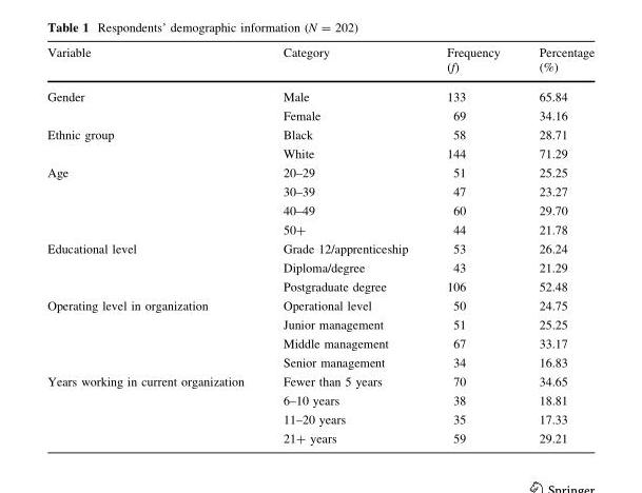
<table><thead><tr><td>Variable</td><td>Category</td><td>Frequency (f)</td><td>Percentage (%)</td></tr></thead><tbody><tr><td rowspan="2">Gender</td><td>Male</td><td>133</td><td>65.84</td></tr><tr><td>Female</td><td>69</td><td>34.16</td></tr><tr><td rowspan="2">Ethnic group</td><td>Black</td><td>58</td><td>28.71</td></tr><tr><td>White</td><td>144</td><td>71.29</td></tr><tr><td rowspan="4">Age</td><td>20–29</td><td>51</td><td>25.25</td></tr><tr><td>30–39</td><td>47</td><td>23.27</td></tr><tr><td>40–49</td><td>60</td><td>29.70</td></tr><tr><td>50+</td><td>44</td><td>21.78</td></tr><tr><td rowspan="3">Educational level</td><td>Grade 12/apprenticeship</td><td>53</td><td>26.24</td></tr><tr><td>Diploma/degree</td><td>43</td><td>21.29</td></tr><tr><td>Postgraduate degree</td><td>106</td><td>52.48</td></tr><tr><td rowspan="4">Operating level in organization</td><td>Operational level</td><td>50</td><td>24.75</td></tr><tr><td>Junior management</td><td>51</td><td>25.25</td></tr><tr><td>Middle management</td><td>67</td><td>33.17</td></tr><tr><td>Senior management</td><td>34</td><td>16.83</td></tr><tr><td rowspan="4">Years working in current organization</td><td>Fewer than 5 years</td><td>70</td><td>34.65</td></tr><tr><td>6–10 years</td><td>38</td><td>18.81</td></tr><tr><td>11–20 years</td><td>35</td><td>17.33</td></tr><tr><td>21+ years</td><td>59</td><td>29.21</td></tr></tbody></table>